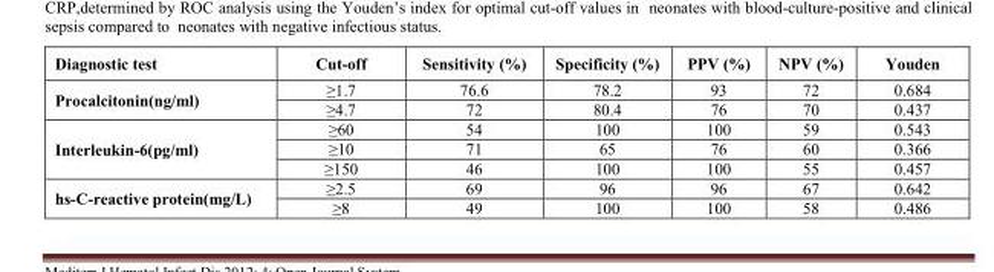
<table><thead><tr><td>Diagnostic test</td><td>Cut-off</td><td>Sensitivity (%)</td><td>Specificity (%)</td><td>PPV (%)</td><td>NPV (%)</td><td>Youden</td></tr></thead><tbody><tr><td rowspan="2">Procalcitonin(ng/ml)</td><td>≥1.7</td><td>76.6</td><td>78.2</td><td>93</td><td>72</td><td>0.684</td></tr><tr><td>≥4.7</td><td>72</td><td>80.4</td><td>76</td><td>70</td><td>0.437</td></tr><tr><td rowspan="3">Interleukin-6(pg/ml)</td><td>≥60</td><td>54</td><td>100</td><td>100</td><td>59</td><td>0.543</td></tr><tr><td>≥10</td><td>71</td><td>65</td><td>76</td><td>60</td><td>0.366</td></tr><tr><td>≥150</td><td>46</td><td>100</td><td>100</td><td>55</td><td>0.457</td></tr><tr><td rowspan="2">hs-C-reactive protein(mg/L)</td><td>≥2.5</td><td>69</td><td>96</td><td>96</td><td>67</td><td>0.642</td></tr><tr><td>≥8</td><td>49</td><td>100</td><td>100</td><td>58</td><td>0.486</td></tr></tbody></table>